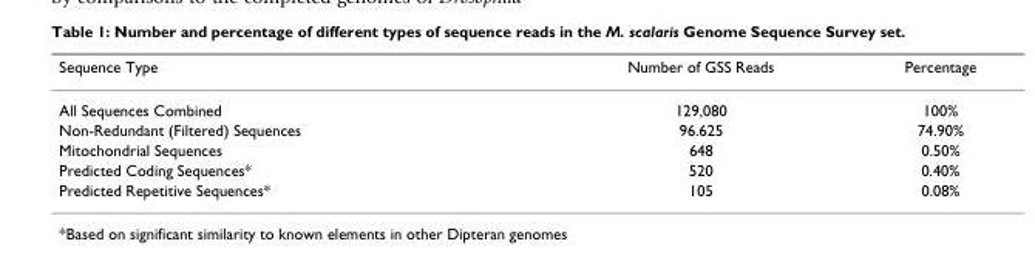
<table><thead><tr><td>Sequence Type</td><td>Number of GSS Reads</td><td>Percentage</td></tr></thead><tbody><tr><td>All Sequences Combined</td><td>129,080</td><td>100%</td></tr><tr><td>Non-Redundant (Filtered) Sequences</td><td>96.625</td><td>74.90%</td></tr><tr><td>Mitochondrial Sequences</td><td>648</td><td>0.50%</td></tr><tr><td>Predicted Coding Sequences*</td><td>520</td><td>0.40%</td></tr><tr><td>Predicted Repetitive Sequences*</td><td>105</td><td>0.08%</td></tr></tbody></table>